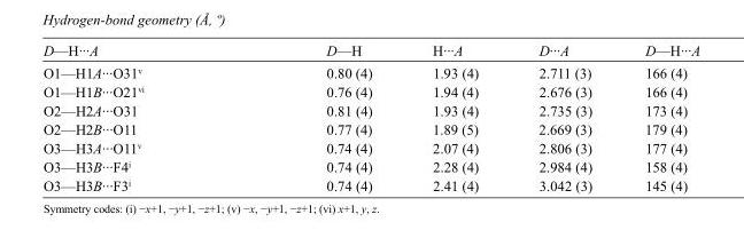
<table><tbody><tr><td>D—H···A</td><td>D—H</td><td>H···A</td><td>D···A</td><td>D—H···A</td></tr><tr><td>O1—H1A···O31<sup>v</sup></td><td>0.80 (4)</td><td>1.93 (4)</td><td>2.711 (3)</td><td>166 (4)</td></tr><tr><td>O1—H1B···O21<sup>vi</sup></td><td>0.76 (4)</td><td>1.94 (4)</td><td>2.676 (3)</td><td>166 (4)</td></tr><tr><td>O2—H2A···O31</td><td>0.81 (4)</td><td>1.93 (4)</td><td>2.735 (3)</td><td>173 (4)</td></tr><tr><td>O2—H2B···O11</td><td>0.77 (4)</td><td>1.89 (5)</td><td>2.669 (3)</td><td>179 (4)</td></tr><tr><td>O3—H3A···O11<sup>v</sup></td><td>0.74 (4)</td><td>2.07 (4)</td><td>2.806 (3)</td><td>177 (4)</td></tr><tr><td>O3—H3B···F4<sup>i</sup></td><td>0.74 (4)</td><td>2.28 (4)</td><td>2.984 (4)</td><td>158 (4)</td></tr><tr><td>O3—H3B···F3<sup>i</sup></td><td>0.74 (4)</td><td>2.41 (4)</td><td>3.042 (3)</td><td>145 (4)</td></tr></tbody></table>